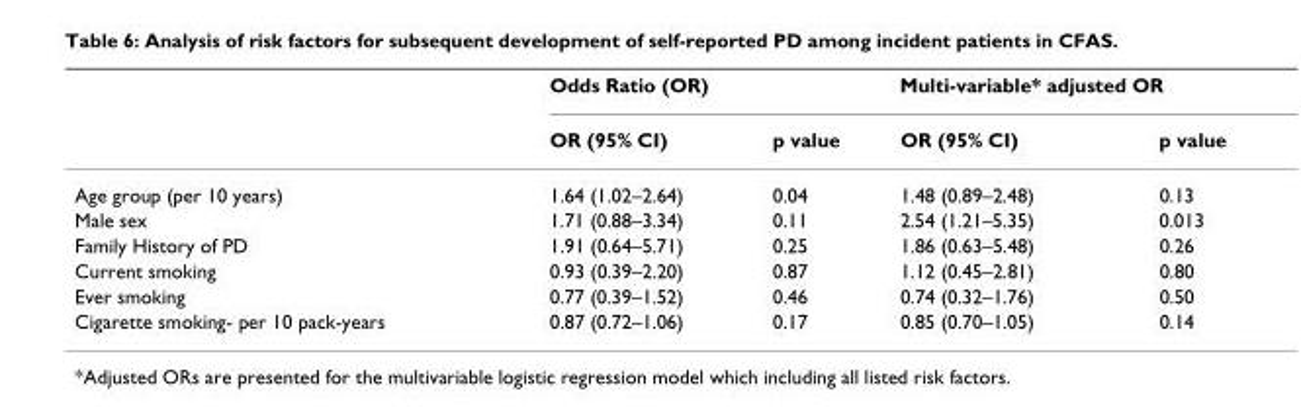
<table><thead><tr><td rowspan="2"></td><td colspan="2">Odds Ratio (OR)</td><td colspan="2">Multi-variable* adjusted OR</td></tr><tr><td>OR (95% CI)</td><td>p value</td><td>OR (95% CI)</td><td>p value</td></tr></thead><tbody><tr><td>Age group (per 10 years)</td><td>1.64 (1.02–2.64)</td><td>0.04</td><td>1.48 (0.89–2.48)</td><td>0.13</td></tr><tr><td>Male sex</td><td>1.71 (0.88–3.34)</td><td>0.11</td><td>2.54 (1.21–5.35)</td><td>0.013</td></tr><tr><td>Family History of PD</td><td>1.91 (0.64–5.71)</td><td>0.25</td><td>1.86 (0.63–5.48)</td><td>0.26</td></tr><tr><td>Current smoking</td><td>0.93 (0.39–2.20)</td><td>0.87</td><td>1.12 (0.45–2.81)</td><td>0.80</td></tr><tr><td>Ever smoking</td><td>0.77 (0.39–1.52)</td><td>0.46</td><td>0.74 (0.32–1.76)</td><td>0.50</td></tr><tr><td>Cigarette smoking- per 10 pack-years</td><td>0.87 (0.72–1.06)</td><td>0.17</td><td>0.85 (0.70–1.05)</td><td>0.14</td></tr></tbody></table>